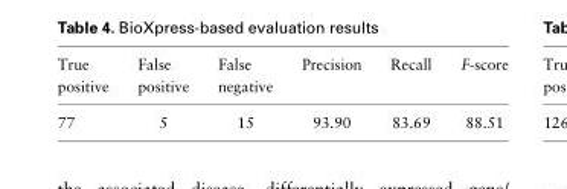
<table><thead><tr><td>True positive</td><td>False positive</td><td>False negative</td><td>Precision</td><td>Recall</td><td>F-score</td></tr></thead><tbody><tr><td>77</td><td>5</td><td>15</td><td>93.90</td><td>83.69</td><td>88.51</td></tr></tbody></table>